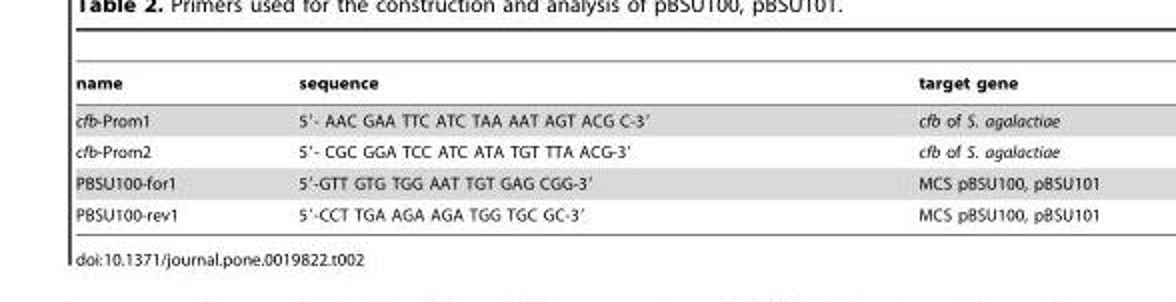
<table><thead><tr><td>name</td><td>sequence</td><td>target gene</td></tr></thead><tbody><tr><td>cfb-Prom1</td><td>5′- AAC GAA TTC ATC TAA AAT AGT ACG C-3′</td><td>cfb of S. agalactiae</td></tr><tr><td>cfb-Prom2</td><td>5′- CGC GGA TCC ATC ATA TGT TTA ACG-3′</td><td>cfb of S. agalactiae</td></tr><tr><td>PBSU100-for1</td><td>5′-GTT GTG TGG AAT TGT GAG CGG-3′</td><td>MCS pBSU100, pBSU101</td></tr><tr><td>PBSU100-rev1</td><td>5′-CCT TGA AGA AGA TGG TGC GC-3′</td><td>MCS pBSU100, pBSU101</td></tr></tbody></table>